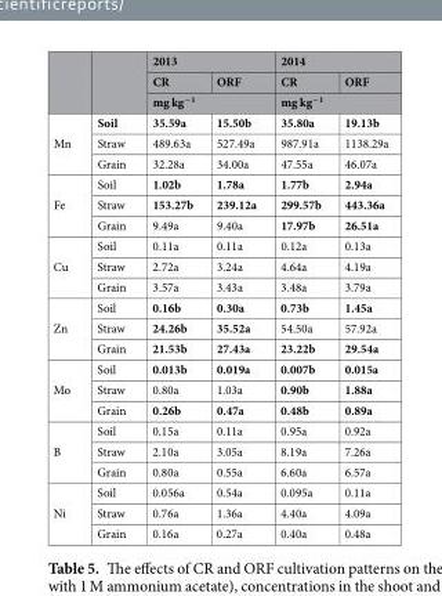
<table><thead><tr><td rowspan="3"></td><td rowspan="3"></td><td colspan="2">2013</td><td colspan="2">2014</td></tr><tr><td>CR</td><td>ORF</td><td>CR</td><td>ORF</td></tr><tr><td colspan="2">mg kg<sup>−1</sup></td><td colspan="2">mg kg<sup>−1</sup></td></tr></thead><tbody><tr><td rowspan="3">Mn</td><td>Soil</td><td>35.59a</td><td>15.50b</td><td>35.80a</td><td>19.13b</td></tr><tr><td>Straw</td><td>489.63a</td><td>527.49a</td><td>987.91a</td><td>1138.29a</td></tr><tr><td>Grain</td><td>32.28a</td><td>34.00a</td><td>47.55a</td><td>46.07a</td></tr><tr><td rowspan="3">Fe</td><td>Soil</td><td>1.02b</td><td>1.78a</td><td>1.77b</td><td>2.94a</td></tr><tr><td>Straw</td><td>153.27b</td><td>239.12a</td><td>299.57b</td><td>443.36a</td></tr><tr><td>Grain</td><td>9.49a</td><td>9.40a</td><td>17.97b</td><td>26.51a</td></tr><tr><td rowspan="3">Cu</td><td>Soil</td><td>0.11a</td><td>0.11a</td><td>0.12a</td><td>0.13a</td></tr><tr><td>Straw</td><td>2.72a</td><td>3.24a</td><td>4.64a</td><td>4.19a</td></tr><tr><td>Grain</td><td>3.57a</td><td>3.43a</td><td>3.48a</td><td>3.79a</td></tr><tr><td rowspan="3">Zn</td><td>Soil</td><td>0.16b</td><td>0.30a</td><td>0.73b</td><td>1.45a</td></tr><tr><td>Straw</td><td>24.26b</td><td>35.52a</td><td>54.50a</td><td>57.92a</td></tr><tr><td>Grain</td><td>21.53b</td><td>27.43a</td><td>23.22b</td><td>29.54a</td></tr><tr><td rowspan="3">Mo</td><td>Soil</td><td>0.013b</td><td>0.019a</td><td>0.007b</td><td>0.015a</td></tr><tr><td>Straw</td><td>0.80a</td><td>1.03a</td><td>0.90b</td><td>1.88a</td></tr><tr><td>Grain</td><td>0.26b</td><td>0.47a</td><td>0.48b</td><td>0.89a</td></tr><tr><td rowspan="3">B</td><td>Soil</td><td>0.15a</td><td>0.11a</td><td>0.95a</td><td>0.92a</td></tr><tr><td>Straw</td><td>2.10a</td><td>3.05a</td><td>8.19a</td><td>7.26a</td></tr><tr><td>Grain</td><td>0.80a</td><td>0.55a</td><td>6.60a</td><td>6.57a</td></tr><tr><td rowspan="3">Ni</td><td>Soil</td><td>0.056a</td><td>0.54a</td><td>0.095a</td><td>0.11a</td></tr><tr><td>Straw</td><td>0.76a</td><td>1.36a</td><td>4.40a</td><td>4.09a</td></tr><tr><td>Grain</td><td>0.16a</td><td>0.27a</td><td>0.40a</td><td>0.48a</td></tr></tbody></table>